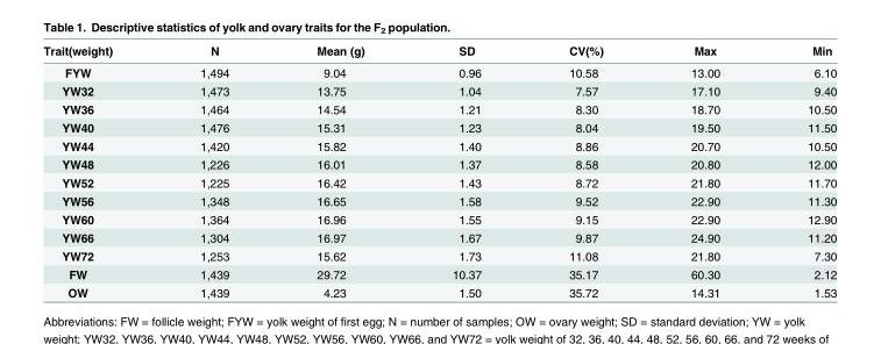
<table><thead><tr><td>Trait(weight)</td><td>N</td><td>Mean (g)</td><td>SD</td><td>CV(%)</td><td>Max</td><td>Min</td></tr></thead><tbody><tr><td>FYW</td><td>1,494</td><td>9.04</td><td>0.96</td><td>10.58</td><td>13.00</td><td>6.10</td></tr><tr><td>YW32</td><td>1,473</td><td>13.75</td><td>1.04</td><td>7.57</td><td>17.10</td><td>9.40</td></tr><tr><td>YW36</td><td>1,464</td><td>14.54</td><td>1.21</td><td>8.30</td><td>18.70</td><td>10.50</td></tr><tr><td>YW40</td><td>1,476</td><td>15.31</td><td>1.23</td><td>8.04</td><td>19.50</td><td>11.50</td></tr><tr><td>YW44</td><td>1,420</td><td>15.82</td><td>1.40</td><td>8.86</td><td>20.70</td><td>10.50</td></tr><tr><td>YW48</td><td>1,226</td><td>16.01</td><td>1.37</td><td>8.58</td><td>20.80</td><td>12.00</td></tr><tr><td>YW52</td><td>1,225</td><td>16.42</td><td>1.43</td><td>8.72</td><td>21.80</td><td>11.70</td></tr><tr><td>YW56</td><td>1,348</td><td>16.65</td><td>1.58</td><td>9.52</td><td>22.90</td><td>11.30</td></tr><tr><td>YW60</td><td>1,364</td><td>16.96</td><td>1.55</td><td>9.15</td><td>22.90</td><td>12.90</td></tr><tr><td>YW66</td><td>1,304</td><td>16.97</td><td>1.67</td><td>9.87</td><td>24.90</td><td>11.20</td></tr><tr><td>YW72</td><td>1,253</td><td>15.62</td><td>1.73</td><td>11.08</td><td>21.80</td><td>7.30</td></tr><tr><td>FW</td><td>1,439</td><td>29.72</td><td>10.37</td><td>35.17</td><td>60.30</td><td>2.12</td></tr><tr><td>OW</td><td>1,439</td><td>4.23</td><td>1.50</td><td>35.72</td><td>14.31</td><td>1.53</td></tr></tbody></table>